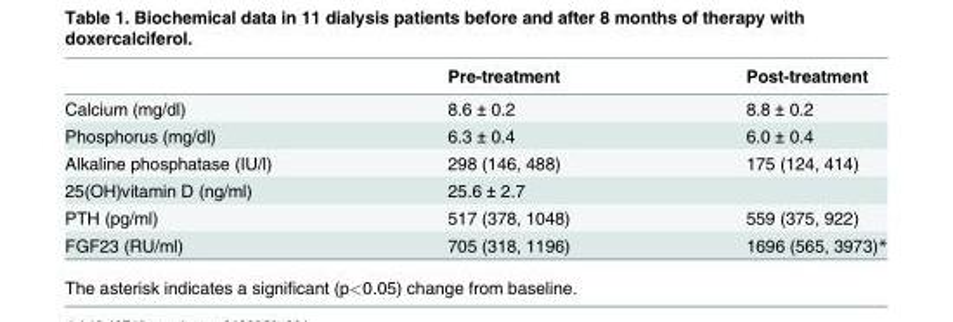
<table><thead><tr><td></td><td>Pre-treatment</td><td>Post-treatment</td></tr></thead><tbody><tr><td>Calcium (mg/dl)</td><td>8.6 ± 0.2</td><td>8.8 ± 0.2</td></tr><tr><td>Phosphorus (mg/dl)</td><td>6.3 ± 0.4</td><td>6.0 ± 0.4</td></tr><tr><td>Alkaline phosphatase (IU/l)</td><td>298 (146, 488)</td><td>175 (124, 414)</td></tr><tr><td>25(OH)vitamin D (ng/ml)</td><td>25.6 ± 2.7</td><td></td></tr><tr><td>PTH (pg/ml)</td><td>517 (378, 1048)</td><td>559 (375, 922)</td></tr><tr><td>FGF23 (RU/ml)</td><td>705 (318, 1196)</td><td>1696 (565, 3973)*</td></tr></tbody></table>